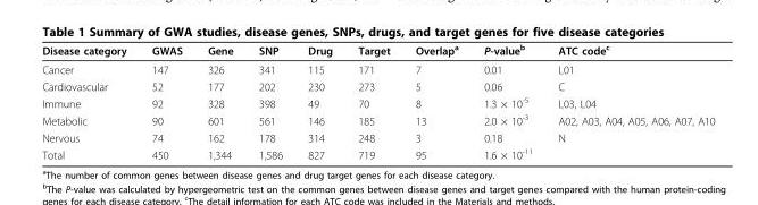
<table><thead><tr><td>Disease category</td><td>GWAS</td><td>Gene</td><td>SNP</td><td>Drug</td><td>Target</td><td>Overlap<sup>a</sup></td><td>P-value<sup>b</sup></td><td>ATC code<sup>c</sup></td></tr></thead><tbody><tr><td>Cancer</td><td>147</td><td>326</td><td>341</td><td>115</td><td>171</td><td>7</td><td>0.01</td><td>L01</td></tr><tr><td>Cardiovascular</td><td>52</td><td>177</td><td>202</td><td>230</td><td>273</td><td>5</td><td>0.06</td><td>C</td></tr><tr><td>Immune</td><td>92</td><td>328</td><td>398</td><td>49</td><td>70</td><td>8</td><td>1.3 × 10<sup>-5</sup></td><td>L03, L04</td></tr><tr><td>Metabolic</td><td>90</td><td>601</td><td>561</td><td>146</td><td>185</td><td>13</td><td>2.0 × 10<sup>-3</sup></td><td>A02, A03, A04, A05, A06, A07, A10</td></tr><tr><td>Nervous</td><td>74</td><td>162</td><td>178</td><td>314</td><td>248</td><td>3</td><td>0.18</td><td>N</td></tr><tr><td>Total</td><td>450</td><td>1,344</td><td>1,586</td><td>827</td><td>719</td><td>95</td><td>1.6 × 10<sup>-11</sup></td><td></td></tr></tbody></table>